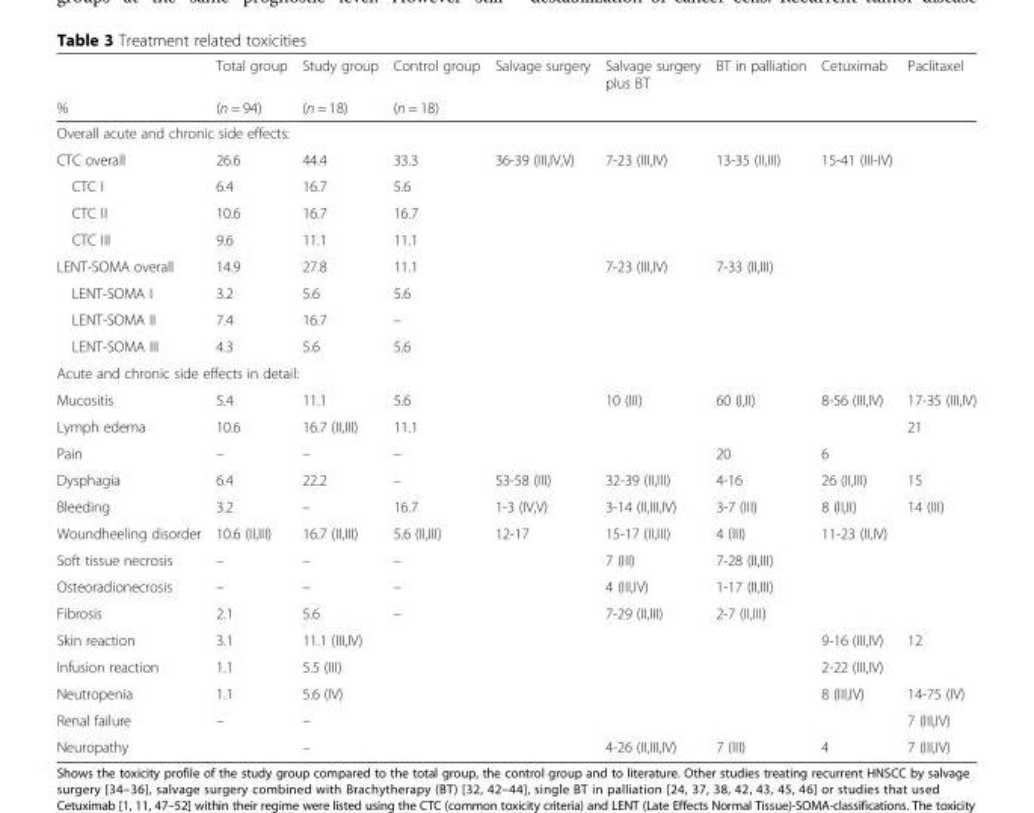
<table><thead><tr><td rowspan="2">%</td><td rowspan="2">Total group (n = 94)</td><td rowspan="2">Study group (n = 18)</td><td rowspan="2">Control group (n = 18)</td><td rowspan="2">Salvage surgery</td><td rowspan="2">Salvage surgery plus BT</td><td rowspan="2">BT in palliation</td><td rowspan="2">Cetuximab</td><td rowspan="2">Paclitaxel</td></tr><tr></tr></thead><tbody><tr><td colspan="9">Overall acute and chronic side effects:</td></tr><tr><td>CTC overall</td><td>26.6</td><td>44.4</td><td>33.3</td><td>36-39 (III,IV,V)</td><td>7-23 (III,IV)</td><td>13-35 (II,III)</td><td>15-41 (III-IV)</td><td></td></tr><tr><td>CTC I</td><td>6.4</td><td>16.7</td><td>5.6</td><td></td><td></td><td></td><td></td><td></td></tr><tr><td>CTC II</td><td>10.6</td><td>16.7</td><td>16.7</td><td></td><td></td><td></td><td></td><td></td></tr><tr><td>CTC III</td><td>9.6</td><td>11.1</td><td>11.1</td><td></td><td></td><td></td><td></td><td></td></tr><tr><td>LENT-SOMA overall</td><td>14.9</td><td>27.8</td><td>11.1</td><td></td><td>7-23 (III,IV)</td><td>7-33 (II,III)</td><td></td><td></td></tr><tr><td>LENT-SOMA I</td><td>3.2</td><td>5.6</td><td>5.6</td><td></td><td></td><td></td><td></td><td></td></tr><tr><td>LENT-SOMA II</td><td>7.4</td><td>16.7</td><td>–</td><td></td><td></td><td></td><td></td><td></td></tr><tr><td>LENT-SOMA III</td><td>4.3</td><td>5.6</td><td>5.6</td><td></td><td></td><td></td><td></td><td></td></tr><tr><td colspan="9">Acute and chronic side effects in detail:</td></tr><tr><td>Mucositis</td><td>5.4</td><td>11.1</td><td>5.6</td><td></td><td>10 (III)</td><td>60 (I,II)</td><td>8-56 (III,IV)</td><td>17-35 (III,IV)</td></tr><tr><td>Lymph edema</td><td>10.6</td><td>16.7 (II,III)</td><td>11.1</td><td></td><td></td><td></td><td></td><td>21</td></tr><tr><td>Pain</td><td>–</td><td>–</td><td>–</td><td></td><td></td><td>20</td><td>6</td><td></td></tr><tr><td>Dysphagia</td><td>6.4</td><td>22.2</td><td>–</td><td>53-58 (III)</td><td>32-39 (II,III)</td><td>4-16</td><td>26 (II,III)</td><td>15</td></tr><tr><td>Bleeding</td><td>3.2</td><td>–</td><td>16.7</td><td>1-3 (IV,V)</td><td>3-14 (II,III,IV)</td><td>3-7 (III)</td><td>8 (II,II)</td><td>14 (III)</td></tr><tr><td>Woundheeling disorder</td><td>10.6 (II,III)</td><td>16.7 (II,III)</td><td>5.6 (II,III)</td><td>12-17</td><td>15-17 (II,III)</td><td>4 (III)</td><td>11-23 (II,IV)</td><td></td></tr><tr><td>Soft tissue necrosis</td><td>–</td><td>–</td><td>–</td><td></td><td>7 (III)</td><td>7-28 (II,III)</td><td></td><td></td></tr><tr><td>Osteoradionecrosis</td><td>–</td><td>–</td><td>–</td><td></td><td>4 (III,IV)</td><td>1-17 (II,III)</td><td></td><td></td></tr><tr><td>Fibrosis</td><td>2.1</td><td>5.6</td><td>–</td><td></td><td>7-29 (II,III)</td><td>2-7 (II,III)</td><td></td><td></td></tr><tr><td>Skin reaction</td><td>3.1</td><td>11.1 (III,IV)</td><td></td><td></td><td></td><td></td><td>9-16 (III,IV)</td><td>12</td></tr><tr><td>Infusion reaction</td><td>1.1</td><td>5.5 (III)</td><td></td><td></td><td></td><td></td><td>2-22 (III,IV)</td><td></td></tr><tr><td>Neutropenia</td><td>1.1</td><td>5.6 (IV)</td><td></td><td></td><td></td><td></td><td>8 (III,IV)</td><td>14-75 (IV)</td></tr><tr><td>Renal failure</td><td>–</td><td>–</td><td></td><td></td><td></td><td></td><td></td><td>7 (III,IV)</td></tr><tr><td>Neuropathy</td><td></td><td>–</td><td></td><td></td><td>4-26 (II,III,IV)</td><td>7 (III)</td><td>4</td><td>7 (III,IV)</td></tr></tbody></table>